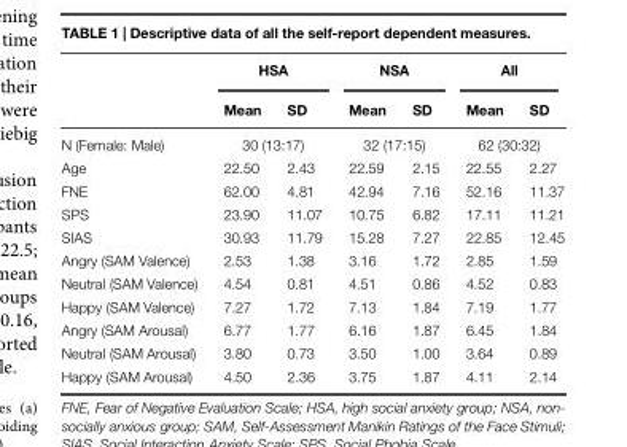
<table><thead><tr><td rowspan="2"></td><td colspan="2">HSA</td><td colspan="2">NSA</td><td colspan="2">All</td></tr><tr><td>Mean</td><td>SD</td><td>Mean</td><td>SD</td><td>Mean</td><td>SD</td></tr></thead><tbody><tr><td>N (Female: Male)</td><td colspan="2">30 (13:17)</td><td colspan="2">32 (17:15)</td><td colspan="2">62 (30:32)</td></tr><tr><td>Age</td><td>22.50</td><td>2.43</td><td>22.59</td><td>2.15</td><td>22.55</td><td>2.27</td></tr><tr><td>FNE</td><td>62.00</td><td>4.81</td><td>42.94</td><td>7.16</td><td>52.16</td><td>11.37</td></tr><tr><td>SPS</td><td>23.90</td><td>11.07</td><td>10.75</td><td>6.82</td><td>17.11</td><td>11.21</td></tr><tr><td>SIAS</td><td>30.93</td><td>11.79</td><td>15.28</td><td>7.27</td><td>22.85</td><td>12.45</td></tr><tr><td>Angry (SAM Valence)</td><td>2.53</td><td>1.38</td><td>3.16</td><td>1.72</td><td>2.85</td><td>1.59</td></tr><tr><td>Neutral (SAM Valence)</td><td>4.54</td><td>0.81</td><td>4.51</td><td>0.86</td><td>4.52</td><td>0.83</td></tr><tr><td>Happy (SAM Valence)</td><td>7.27</td><td>1.72</td><td>7.13</td><td>1.84</td><td>7.19</td><td>1.77</td></tr><tr><td>Angry (SAM Arousal)</td><td>6.77</td><td>1.77</td><td>6.16</td><td>1.87</td><td>6.45</td><td>1.84</td></tr><tr><td>Neutral (SAM Arousal)</td><td>3.80</td><td>0.73</td><td>3.50</td><td>1.00</td><td>3.64</td><td>0.89</td></tr><tr><td>Happy (SAM Arousal)</td><td>4.50</td><td>2.36</td><td>3.75</td><td>1.87</td><td>4.11</td><td>2.14</td></tr></tbody></table>